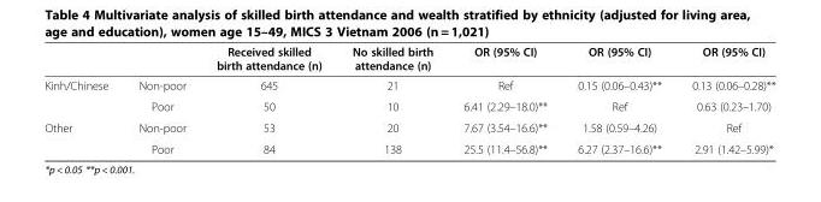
<table><thead><tr><td></td><td></td><td>Received skilled birth attendance (n)</td><td>No skilled birth attendance (n)</td><td>OR (95% CI)</td><td>OR (95% CI)</td><td>OR (95% CI)</td></tr></thead><tbody><tr><td rowspan="2">Kinh/Chinese</td><td>Non-poor</td><td>645</td><td>21</td><td>Ref</td><td>0.15 (0.06–0.43)**</td><td>0.13 (0.06–0.28)**</td></tr><tr><td>Poor</td><td>50</td><td>10</td><td>6.41 (2.29–18.0)**</td><td>Ref</td><td>0.63 (0.23–1.70)</td></tr><tr><td rowspan="2">Other</td><td>Non-poor</td><td>53</td><td>20</td><td>7.67 (3.54–16.6)**</td><td>1.58 (0.59–4.26)</td><td>Ref</td></tr><tr><td>Poor</td><td>84</td><td>138</td><td>25.5 (11.4–56.8)**</td><td>6.27 (2.37–16.6)**</td><td>2.91 (1.42–5.99)*</td></tr></tbody></table>